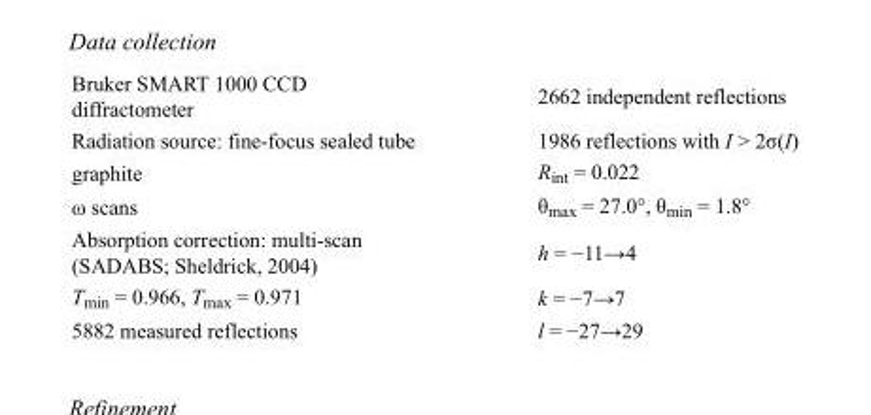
<table><tbody><tr><td>Bruker SMART 1000 CCD diffractometer</td><td>2662 independent reflections</td></tr><tr><td>Radiation source: fine-focus sealed tube</td><td>1986 reflections with I &gt; 2σ(I)</td></tr><tr><td>graphite</td><td>R<sub>int</sub> = 0.022</td></tr><tr><td>ω scans</td><td>θ<sub>max</sub> = 27.0°, θ<sub>min</sub> = 1.8°</td></tr><tr><td>Absorption correction: multi-scan (SADABS; Sheldrick, 2004)</td><td>h = −11→4</td></tr><tr><td>T<sub>min</sub> = 0.966, T<sub>max</sub> = 0.971</td><td>k = −7→7</td></tr><tr><td>5882 measured reflections</td><td>l = −27→29</td></tr></tbody></table>